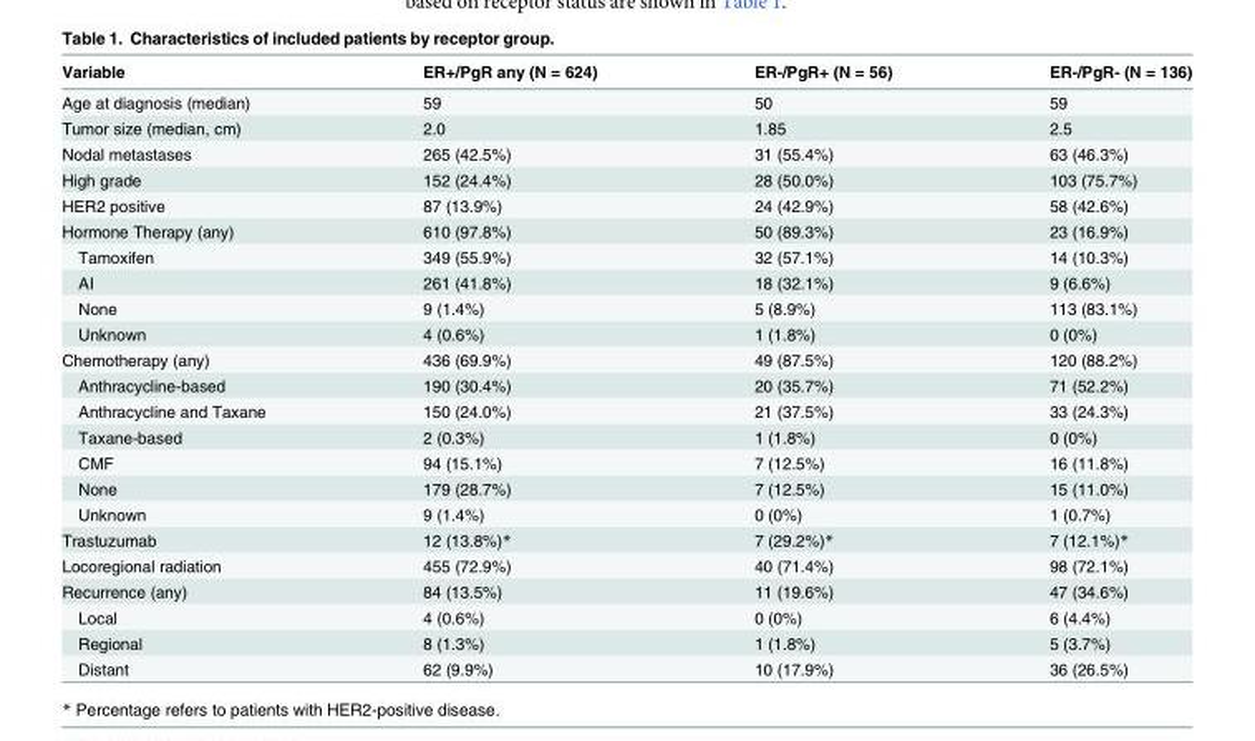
<table><thead><tr><td>Variable</td><td>ER+/PgR any (N = 624)</td><td>ER-/PgR+ (N = 56)</td><td>ER-/PgR- (N = 136)</td></tr></thead><tbody><tr><td>Age at diagnosis (median)</td><td>59</td><td>50</td><td>59</td></tr><tr><td>Tumor size (median, cm)</td><td>2.0</td><td>1.85</td><td>2.5</td></tr><tr><td>Nodal metastases</td><td>265 (42.5%)</td><td>31 (55.4%)</td><td>63 (46.3%)</td></tr><tr><td>High grade</td><td>152 (24.4%)</td><td>28 (50.0%)</td><td>103 (75.7%)</td></tr><tr><td>HER2 positive</td><td>87 (13.9%)</td><td>24 (42.9%)</td><td>58 (42.6%)</td></tr><tr><td>Hormone Therapy (any)</td><td>610 (97.8%)</td><td>50 (89.3%)</td><td>23 (16.9%)</td></tr><tr><td>Tamoxifen</td><td>349 (55.9%)</td><td>32 (57.1%)</td><td>14 (10.3%)</td></tr><tr><td>AI</td><td>261 (41.8%)</td><td>18 (32.1%)</td><td>9 (6.6%)</td></tr><tr><td>None</td><td>9 (1.4%)</td><td>5 (8.9%)</td><td>113 (83.1%)</td></tr><tr><td>Unknown</td><td>4 (0.6%)</td><td>1 (1.8%)</td><td>0 (0%)</td></tr><tr><td>Chemotherapy (any)</td><td>436 (69.9%)</td><td>49 (87.5%)</td><td>120 (88.2%)</td></tr><tr><td>Anthracycline-based</td><td>190 (30.4%)</td><td>20 (35.7%)</td><td>71 (52.2%)</td></tr><tr><td>Anthracycline and Taxane</td><td>150 (24.0%)</td><td>21 (37.5%)</td><td>33 (24.3%)</td></tr><tr><td>Taxane-based</td><td>2 (0.3%)</td><td>1 (1.8%)</td><td>0 (0%)</td></tr><tr><td>CMF</td><td>94 (15.1%)</td><td>7 (12.5%)</td><td>16 (11.8%)</td></tr><tr><td>None</td><td>179 (28.7%)</td><td>7 (12.5%)</td><td>15 (11.0%)</td></tr><tr><td>Unknown</td><td>9 (1.4%)</td><td>0 (0%)</td><td>1 (0.7%)</td></tr><tr><td>Trastuzumab</td><td>12 (13.8%)*</td><td>7 (29.2%)*</td><td>7 (12.1%)*</td></tr><tr><td>Locoregional radiation</td><td>455 (72.9%)</td><td>40 (71.4%)</td><td>98 (72.1%)</td></tr><tr><td>Recurrence (any)</td><td>84 (13.5%)</td><td>11 (19.6%)</td><td>47 (34.6%)</td></tr><tr><td>Local</td><td>4 (0.6%)</td><td>0 (0%)</td><td>6 (4.4%)</td></tr><tr><td>Regional</td><td>8 (1.3%)</td><td>1 (1.8%)</td><td>5 (3.7%)</td></tr><tr><td>Distant</td><td>62 (9.9%)</td><td>10 (17.9%)</td><td>36 (26.5%)</td></tr></tbody></table>